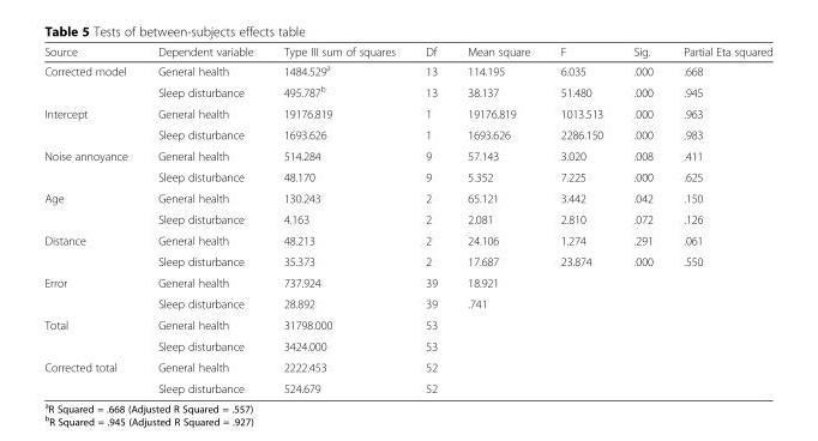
<table><thead><tr><td>Source</td><td>Dependent variable</td><td>Type III sum of squares</td><td>Df</td><td>Mean square</td><td>F</td><td>Sig.</td><td>Partial Eta squared</td></tr></thead><tbody><tr><td rowspan="2">Corrected model</td><td>General health</td><td>1484.529<sup>a</sup></td><td>13</td><td>114.195</td><td>6.035</td><td>.000</td><td>.668</td></tr><tr><td>Sleep disturbance</td><td>495.787<sup>b</sup></td><td>13</td><td>38.137</td><td>51.480</td><td>.000</td><td>.945</td></tr><tr><td rowspan="2">Intercept</td><td>General health</td><td>19176.819</td><td>1</td><td>19176.819</td><td>1013.513</td><td>.000</td><td>.963</td></tr><tr><td>Sleep disturbance</td><td>1693.626</td><td>1</td><td>1693.626</td><td>2286.150</td><td>.000</td><td>.983</td></tr><tr><td rowspan="2">Noise annoyance</td><td>General health</td><td>514.284</td><td>9</td><td>57.143</td><td>3.020</td><td>.008</td><td>.411</td></tr><tr><td>Sleep disturbance</td><td>48.170</td><td>9</td><td>5.352</td><td>7.225</td><td>.000</td><td>.625</td></tr><tr><td rowspan="2">Age</td><td>General health</td><td>130.243</td><td>2</td><td>65.121</td><td>3.442</td><td>.042</td><td>.150</td></tr><tr><td>Sleep disturbance</td><td>4.163</td><td>2</td><td>2.081</td><td>2.810</td><td>.072</td><td>.126</td></tr><tr><td rowspan="2">Distance</td><td>General health</td><td>48.213</td><td>2</td><td>24.106</td><td>1.274</td><td>.291</td><td>.061</td></tr><tr><td>Sleep disturbance</td><td>35.373</td><td>2</td><td>17.687</td><td>23.874</td><td>.000</td><td>.550</td></tr><tr><td rowspan="2">Error</td><td>General health</td><td>737.924</td><td>39</td><td>18.921</td><td></td><td></td><td></td></tr><tr><td>Sleep disturbance</td><td>28.892</td><td>39</td><td>.741</td><td></td><td></td><td></td></tr><tr><td rowspan="2">Total</td><td>General health</td><td>31798.000</td><td>53</td><td></td><td></td><td></td><td></td></tr><tr><td>Sleep disturbance</td><td>3424.000</td><td>53</td><td></td><td></td><td></td><td></td></tr><tr><td rowspan="2">Corrected total</td><td>General health</td><td>2222.453</td><td>52</td><td></td><td></td><td></td><td></td></tr><tr><td>Sleep disturbance</td><td>524.679</td><td>52</td><td></td><td></td><td></td><td></td></tr></tbody></table>